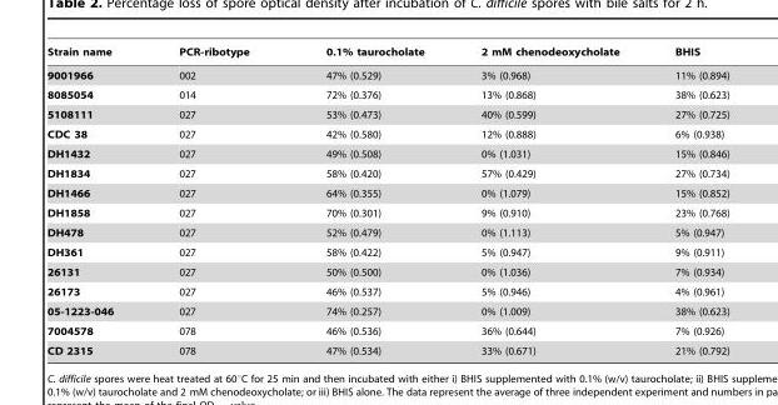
<table><thead><tr><td>Strain name</td><td>PCR-ribotype</td><td>0.1% taurocholate</td><td>2 mM chenodeoxycholate</td><td>BHIS</td></tr></thead><tbody><tr><td>9001966</td><td>002</td><td>47% (0.529)</td><td>3% (0.968)</td><td>11% (0.894)</td></tr><tr><td>8085054</td><td>014</td><td>72% (0.376)</td><td>13% (0.868)</td><td>38% (0.623)</td></tr><tr><td>5108111</td><td>027</td><td>53% (0.473)</td><td>40% (0.599)</td><td>27% (0.725)</td></tr><tr><td>CDC 38</td><td>027</td><td>42% (0.580)</td><td>12% (0.888)</td><td>6% (0.938)</td></tr><tr><td>DH1432</td><td>027</td><td>49% (0.508)</td><td>0% (1.031)</td><td>15% (0.846)</td></tr><tr><td>DH1834</td><td>027</td><td>58% (0.420)</td><td>57% (0.429)</td><td>27% (0.734)</td></tr><tr><td>DH1466</td><td>027</td><td>64% (0.355)</td><td>0% (1.079)</td><td>15% (0.852)</td></tr><tr><td>DH1858</td><td>027</td><td>70% (0.301)</td><td>9% (0.910)</td><td>23% (0.768)</td></tr><tr><td>DH478</td><td>027</td><td>52% (0.479)</td><td>0% (1.113)</td><td>5% (0.947)</td></tr><tr><td>DH361</td><td>027</td><td>58% (0.422)</td><td>5% (0.947)</td><td>9% (0.911)</td></tr><tr><td>26131</td><td>027</td><td>50% (0.500)</td><td>0% (1.036)</td><td>7% (0.934)</td></tr><tr><td>26173</td><td>027</td><td>46% (0.537)</td><td>5% (0.946)</td><td>4% (0.961)</td></tr><tr><td>05-1223-046</td><td>027</td><td>74% (0.257)</td><td>0% (1.009)</td><td>38% (0.623)</td></tr><tr><td>7004578</td><td>078</td><td>46% (0.536)</td><td>36% (0.644)</td><td>7% (0.926)</td></tr><tr><td>CD 2315</td><td>078</td><td>47% (0.534)</td><td>33% (0.671)</td><td>21% (0.792)</td></tr></tbody></table>